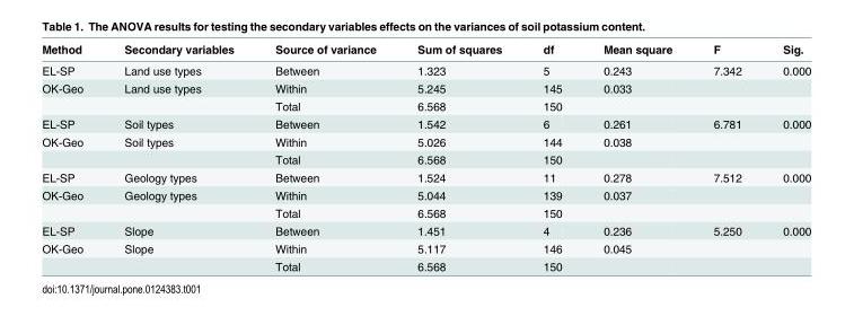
<table><thead><tr><td>Method</td><td>Secondary variables</td><td>Source of variance</td><td>Sum of squares</td><td>df</td><td>Mean square</td><td>F</td><td>Sig.</td></tr></thead><tbody><tr><td>EL-SP</td><td>Land use types</td><td>Between</td><td>1.323</td><td>5</td><td>0.243</td><td>7.342</td><td>0.000</td></tr><tr><td rowspan="2">OK-Geo</td><td>Land use types</td><td>Within</td><td>5.245</td><td>145</td><td>0.033</td><td></td><td></td></tr><tr><td></td><td>Total</td><td>6.568</td><td>150</td><td></td><td></td><td></td></tr><tr><td>EL-SP</td><td>Soil types</td><td>Between</td><td>1.542</td><td>6</td><td>0.261</td><td>6.781</td><td>0.000</td></tr><tr><td rowspan="2">OK-Geo</td><td>Soil types</td><td>Within</td><td>5.026</td><td>144</td><td>0.038</td><td></td><td></td></tr><tr><td></td><td>Total</td><td>6.568</td><td>150</td><td></td><td></td><td></td></tr><tr><td>EL-SP</td><td>Geology types</td><td>Between</td><td>1.524</td><td>11</td><td>0.278</td><td>7.512</td><td>0.000</td></tr><tr><td rowspan="2">OK-Geo</td><td>Geology types</td><td>Within</td><td>5.044</td><td>139</td><td>0.037</td><td></td><td></td></tr><tr><td></td><td>Total</td><td>6.568</td><td>150</td><td></td><td></td><td></td></tr><tr><td>EL-SP</td><td>Slope</td><td>Between</td><td>1.451</td><td>4</td><td>0.236</td><td>5.250</td><td>0.000</td></tr><tr><td rowspan="2">OK-Geo</td><td>Slope</td><td>Within</td><td>5.117</td><td>146</td><td>0.045</td><td></td><td></td></tr><tr><td></td><td>Total</td><td>6.568</td><td>150</td><td></td><td></td><td></td></tr></tbody></table>